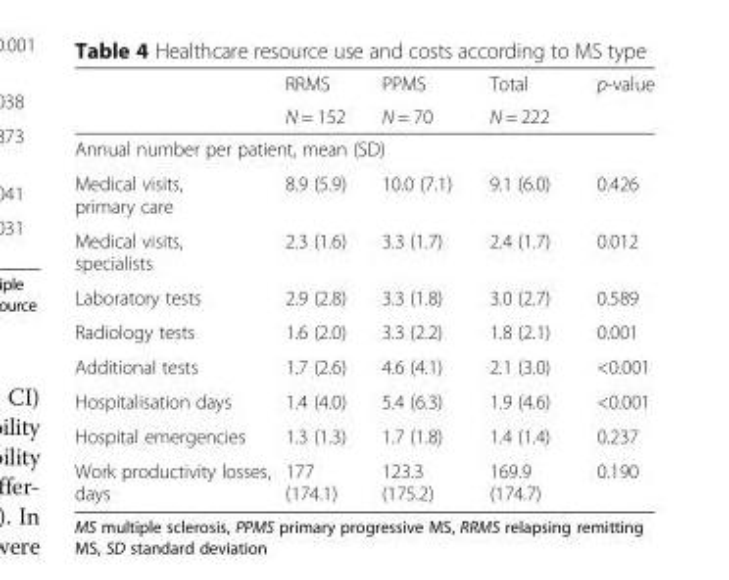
<table><thead><tr><td rowspan="2"></td><td rowspan="2">RRMS N = 152</td><td rowspan="2">PPMS N = 70</td><td rowspan="2">Total N = 222</td><td rowspan="2">p-value</td></tr><tr></tr></thead><tbody><tr><td colspan="5">Annual number per patient, mean (SD)</td></tr><tr><td>Medical visits, primary care</td><td>8.9 (5.9)</td><td>10.0 (7.1)</td><td>9.1 (6.0)</td><td>0.426</td></tr><tr><td>Medical visits, specialists</td><td>2.3 (1.6)</td><td>3.3 (1.7)</td><td>2.4 (1.7)</td><td>0.012</td></tr><tr><td>Laboratory tests</td><td>2.9 (2.8)</td><td>3.3 (1.8)</td><td>3.0 (2.7)</td><td>0.589</td></tr><tr><td>Radiology tests</td><td>1.6 (2.0)</td><td>3.3 (2.2)</td><td>1.8 (2.1)</td><td>0.001</td></tr><tr><td>Additional tests</td><td>1.7 (2.6)</td><td>4.6 (4.1)</td><td>2.1 (3.0)</td><td>&lt;0.001</td></tr><tr><td>Hospitalisation days</td><td>1.4 (4.0)</td><td>5.4 (6.3)</td><td>1.9 (4.6)</td><td>&lt;0.001</td></tr><tr><td>Hospital emergencies</td><td>1.3 (1.3)</td><td>1.7 (1.8)</td><td>1.4 (1.4)</td><td>0.237</td></tr><tr><td>Work productivity losses, days</td><td>177 (174.1)</td><td>123.3 (175.2)</td><td>169.9 (174.7)</td><td>0.190</td></tr></tbody></table>